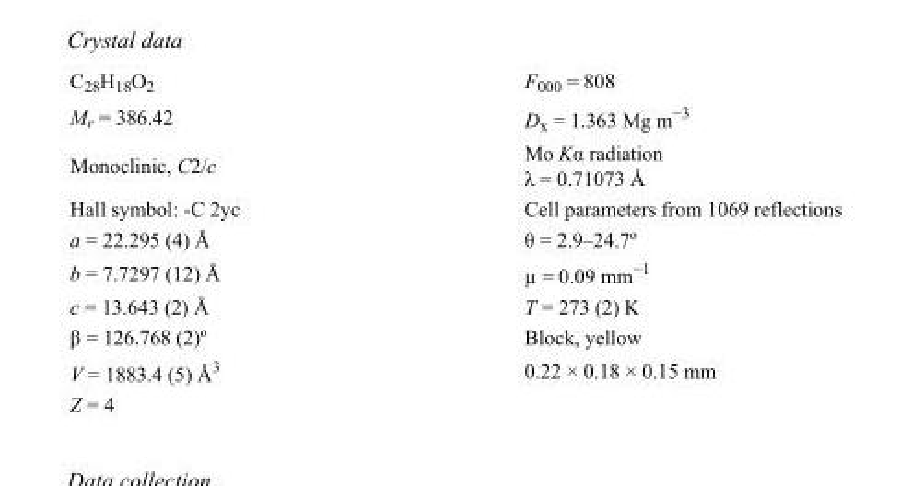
<table><tbody><tr><td>C<sub>28</sub>H<sub>18</sub>O<sub>2</sub></td><td>F000 = 808</td></tr><tr><td>M<sub>r</sub> = 386.42</td><td>D<sub>x</sub> = 1.363 Mg m<sup>−3</sup></td></tr><tr><td>Monoclinic, C2/c</td><td>Mo Kα radiation λ = 0.71073 Å</td></tr><tr><td>Hall symbol: -C 2yc</td><td>Cell parameters from 1069 reflections</td></tr><tr><td>a = 22.295 (4) Å</td><td>θ = 2.9–24.7º</td></tr><tr><td>b = 7.7297 (12) Å</td><td>µ = 0.09 mm<sup>−1</sup></td></tr><tr><td>c = 13.643 (2) Å</td><td>T = 273 (2) K</td></tr><tr><td>β = 126.768 (2)º</td><td>Block, yellow</td></tr><tr><td>V = 1883.4 (5) Å<sup>3</sup></td><td>0.22 × 0.18 × 0.15 mm</td></tr><tr><td>Z = 4</td><td></td></tr></tbody></table>